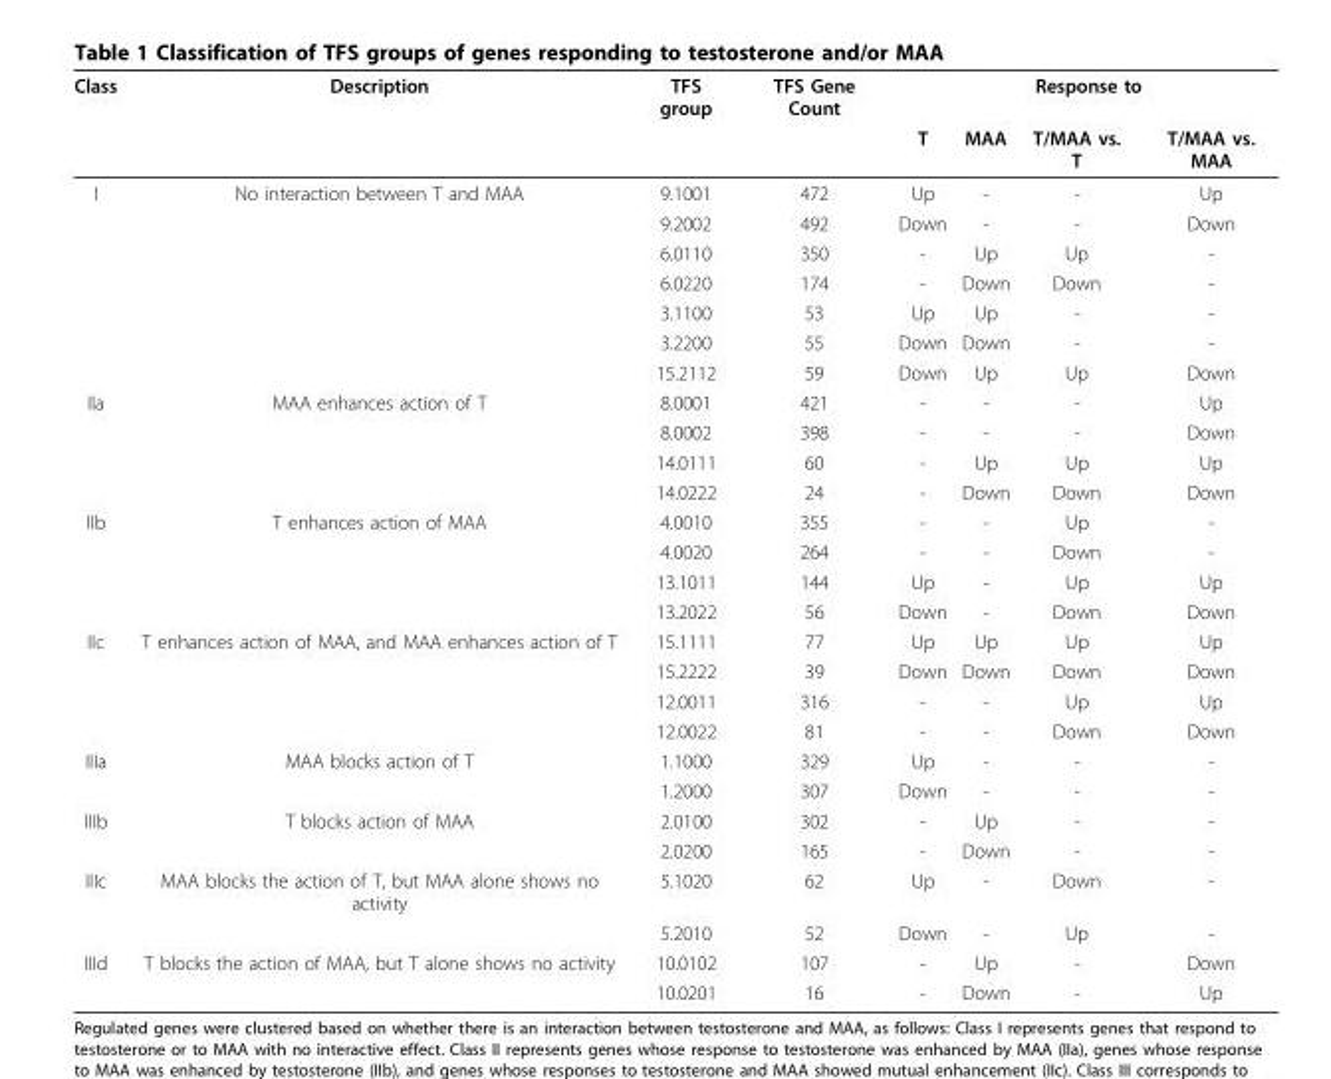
<table><thead><tr><td rowspan="2">Class</td><td rowspan="2">Description</td><td rowspan="2">TFS group</td><td rowspan="2">TFS Gene Count</td><td colspan="4">Response to</td></tr><tr><td>T</td><td>MAA</td><td>T/MAA vs. T</td><td>T/MAA vs. MAA</td></tr></thead><tbody><tr><td rowspan="7">I</td><td>No interaction between T and MAA</td><td>9.1001</td><td>472</td><td>Up</td><td>-</td><td>-</td><td>Up</td></tr><tr><td></td><td>9.2002</td><td>492</td><td>Down</td><td>-</td><td>-</td><td>Down</td></tr><tr><td></td><td>6.0110</td><td>350</td><td>-</td><td>Up</td><td>Up</td><td>-</td></tr><tr><td></td><td>6.0220</td><td>174</td><td>-</td><td>Down</td><td>Down</td><td>-</td></tr><tr><td></td><td>3.1100</td><td>53</td><td>Up</td><td>Up</td><td>-</td><td>-</td></tr><tr><td></td><td>3.2200</td><td>55</td><td>Down</td><td>Down</td><td>-</td><td>-</td></tr><tr><td></td><td>15.2112</td><td>59</td><td>Down</td><td>Up</td><td>Up</td><td>Down</td></tr><tr><td rowspan="4">IIa</td><td>MAA enhances action of T</td><td>8.0001</td><td>421</td><td>-</td><td>-</td><td>-</td><td>Up</td></tr><tr><td></td><td>8.0002</td><td>398</td><td>-</td><td>-</td><td>-</td><td>Down</td></tr><tr><td></td><td>14.0111</td><td>60</td><td>-</td><td>Up</td><td>Up</td><td>Up</td></tr><tr><td></td><td>14.0222</td><td>24</td><td>-</td><td>Down</td><td>Down</td><td>Down</td></tr><tr><td rowspan="4">IIb</td><td>T enhances action of MAA</td><td>4.0010</td><td>355</td><td>-</td><td>-</td><td>Up</td><td>-</td></tr><tr><td></td><td>4.0020</td><td>264</td><td>-</td><td>-</td><td>Down</td><td>-</td></tr><tr><td></td><td>13.1011</td><td>144</td><td>Up</td><td>-</td><td>Up</td><td>Up</td></tr><tr><td></td><td>13.2022</td><td>56</td><td>Down</td><td>-</td><td>Down</td><td>Down</td></tr><tr><td rowspan="4">IIc</td><td>T enhances action of MAA, and MAA enhances action of T</td><td>15.1111</td><td>77</td><td>Up</td><td>Up</td><td>Up</td><td>Up</td></tr><tr><td></td><td>15.2222</td><td>39</td><td>Down</td><td>Down</td><td>Down</td><td>Down</td></tr><tr><td></td><td>12.0011</td><td>316</td><td>-</td><td>-</td><td>Up</td><td>Up</td></tr><tr><td></td><td>12.0022</td><td>81</td><td>-</td><td>-</td><td>Down</td><td>Down</td></tr><tr><td rowspan="2">IIIa</td><td>MAA blocks action of T</td><td>1.1000</td><td>329</td><td>Up</td><td>-</td><td>-</td><td>-</td></tr><tr><td></td><td>1.2000</td><td>307</td><td>Down</td><td>-</td><td>-</td><td>-</td></tr><tr><td rowspan="2">IIIb</td><td>T blocks action of MAA</td><td>2.0100</td><td>302</td><td>-</td><td>Up</td><td>-</td><td>-</td></tr><tr><td></td><td>2.0200</td><td>165</td><td>-</td><td>Down</td><td>-</td><td>-</td></tr><tr><td rowspan="2">IIIc</td><td>MAA blocks the action of T, but MAA alone shows no activity</td><td>5.1020</td><td>62</td><td>Up</td><td>-</td><td>Down</td><td>-</td></tr><tr><td></td><td>5.2010</td><td>52</td><td>Down</td><td>-</td><td>Up</td><td>-</td></tr><tr><td rowspan="2">IIId</td><td>T blocks the action of MAA, but T alone shows no activity</td><td>10.0102</td><td>107</td><td>-</td><td>Up</td><td>-</td><td>Down</td></tr><tr><td></td><td>10.0201</td><td>16</td><td>-</td><td>Down</td><td>-</td><td>Up</td></tr></tbody></table>